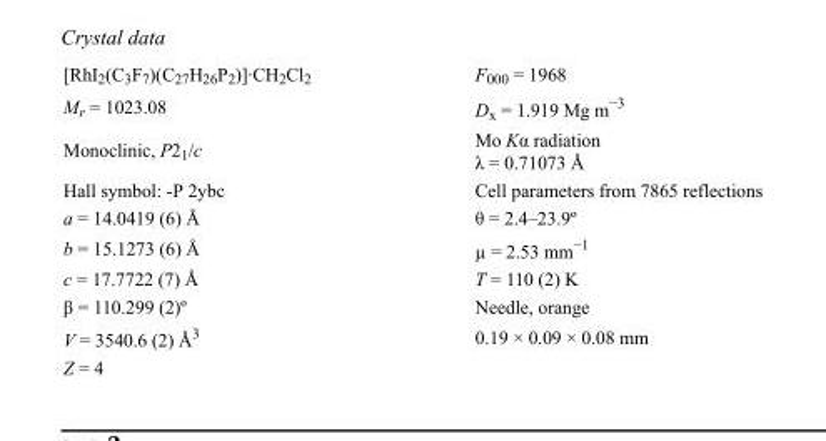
<table><tbody><tr><td>[RhI<sub>2</sub>(C<sub>3</sub>F<sub>7</sub>)(C<sub>27</sub>H<sub>26</sub>P<sub>2</sub>)]·CH<sub>2</sub>Cl<sub>2</sub></td><td>F000 = 1968</td></tr><tr><td>M<sub>r</sub> = 1023.08</td><td>D<sub>x</sub> = 1.919 Mg m<sup>−3</sup></td></tr><tr><td>Monoclinic, P2<sub>1</sub>/c</td><td>Mo Kα radiation λ = 0.71073 Å</td></tr><tr><td>Hall symbol: -P 2ybc</td><td>Cell parameters from 7865 reflections</td></tr><tr><td>a = 14.0419 (6) Å</td><td>θ = 2.4–23.9º</td></tr><tr><td>b = 15.1273 (6) Å</td><td>µ = 2.53 mm<sup>−1</sup></td></tr><tr><td>c = 17.7722 (7) Å</td><td>T = 110 (2) K</td></tr><tr><td>β = 110.299 (2)º</td><td>Needle, orange</td></tr><tr><td>V = 3540.6 (2) Å<sup>3</sup></td><td>0.19 × 0.09 × 0.08 mm</td></tr><tr><td>Z = 4</td><td></td></tr></tbody></table>